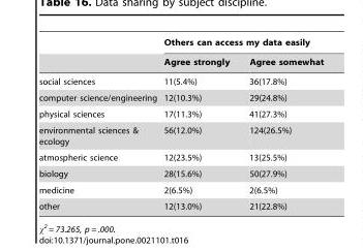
<table><thead><tr><td rowspan="2"></td><td colspan="2">Others can access my data easily</td></tr><tr><td>Agree strongly</td><td>Agree somewhat</td></tr></thead><tbody><tr><td>social sciences</td><td>11(5.4%)</td><td>36(17.8%)</td></tr><tr><td>computer science/engineering</td><td>12(10.3%)</td><td>29(24.8%)</td></tr><tr><td>physical sciences</td><td>17(11.3%)</td><td>41(27.3%)</td></tr><tr><td>environmental sciences &amp; ecology</td><td>56(12.0%)</td><td>124(26.5%)</td></tr><tr><td>atmospheric science</td><td>12(23.5%)</td><td>13(25.5%)</td></tr><tr><td>biology</td><td>28(15.6%)</td><td>50(27.9%)</td></tr><tr><td>medicine</td><td>2(6.5%)</td><td>2(6.5%)</td></tr><tr><td>other</td><td>12(13.0%)</td><td>21(22.8%)</td></tr></tbody></table>